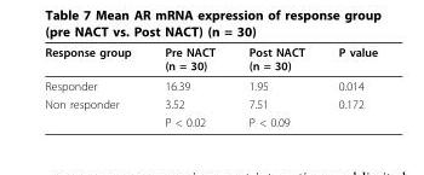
<table><thead><tr><td>Response group</td><td>Pre NACT (n = 30)</td><td>Post NACT (n = 30)</td><td>P value</td></tr></thead><tbody><tr><td>Responder</td><td>16.39</td><td>1.95</td><td>0.014</td></tr><tr><td rowspan="2">Non responder</td><td>3.52</td><td>7.51</td><td>0.172</td></tr><tr><td>P &lt; 0.02</td><td>P &lt; 0.09</td><td></td></tr></tbody></table>